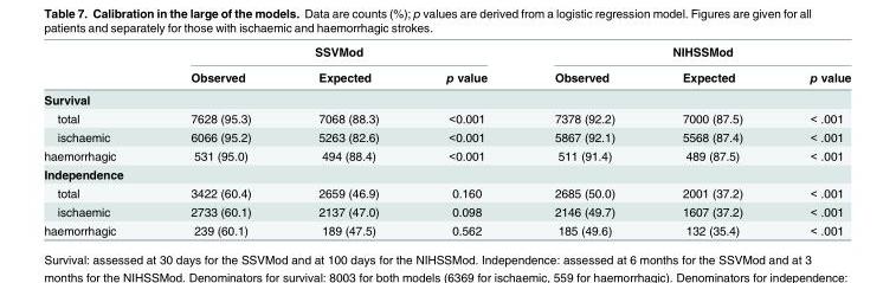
<table><thead><tr><td rowspan="2"></td><td colspan="3">SSVMod</td><td colspan="3">NIHSSMod</td></tr><tr><td>Observed</td><td>Expected</td><td>p value</td><td>Observed</td><td>Expected</td><td>p value</td></tr></thead><tbody><tr><td colspan="7">Survival</td></tr><tr><td>total</td><td>7628 (95.3)</td><td>7068 (88.3)</td><td>&lt;0.001</td><td>7378 (92.2)</td><td>7000 (87.5)</td><td>&lt; .001</td></tr><tr><td>ischaemic</td><td>6066 (95.2)</td><td>5263 (82.6)</td><td>&lt;0.001</td><td>5867 (92.1)</td><td>5568 (87.4)</td><td>&lt; .001</td></tr><tr><td>haemorrhagic</td><td>531 (95.0)</td><td>494 (88.4)</td><td>&lt;0.001</td><td>511 (91.4)</td><td>489 (87.5)</td><td>&lt; .001</td></tr><tr><td colspan="7">Independence</td></tr><tr><td>total</td><td>3422 (60.4)</td><td>2659 (46.9)</td><td>0.160</td><td>2685 (50.0)</td><td>2001 (37.2)</td><td>&lt; .001</td></tr><tr><td>ischaemic</td><td>2733 (60.1)</td><td>2137 (47.0)</td><td>0.098</td><td>2146 (49.7)</td><td>1607 (37.2)</td><td>&lt; .001</td></tr><tr><td>haemorrhagic</td><td>239 (60.1)</td><td>189 (47.5)</td><td>0.562</td><td>185 (49.6)</td><td>132 (35.4)</td><td>&lt; .001</td></tr></tbody></table>